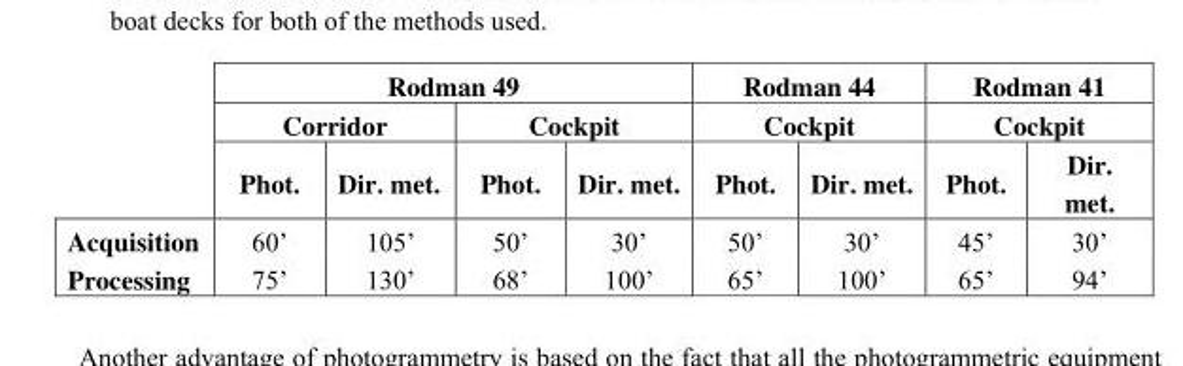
<table><thead><tr><td rowspan="3"></td><td colspan="4">Rodman 49</td><td rowspan="2" colspan="2">Rodman 44 Cockpit</td><td rowspan="2" colspan="2">Rodman 41 Cockpit</td></tr><tr><td colspan="2">Corridor</td><td colspan="2">Cockpit</td></tr><tr><td>Phot.</td><td>Dir. met.</td><td>Phot.</td><td>Dir. met.</td><td>Phot.</td><td>Dir. met.</td><td>Phot.</td><td>Dir. met.</td></tr></thead><tbody><tr><td>Acquisition</td><td>60’</td><td>105’</td><td>50’</td><td>30’</td><td>50’</td><td>30’</td><td>45’</td><td>30’</td></tr><tr><td>Processing</td><td>75’</td><td>130’</td><td>68’</td><td>100’</td><td>65’</td><td>100’</td><td>65’</td><td>94’</td></tr></tbody></table>